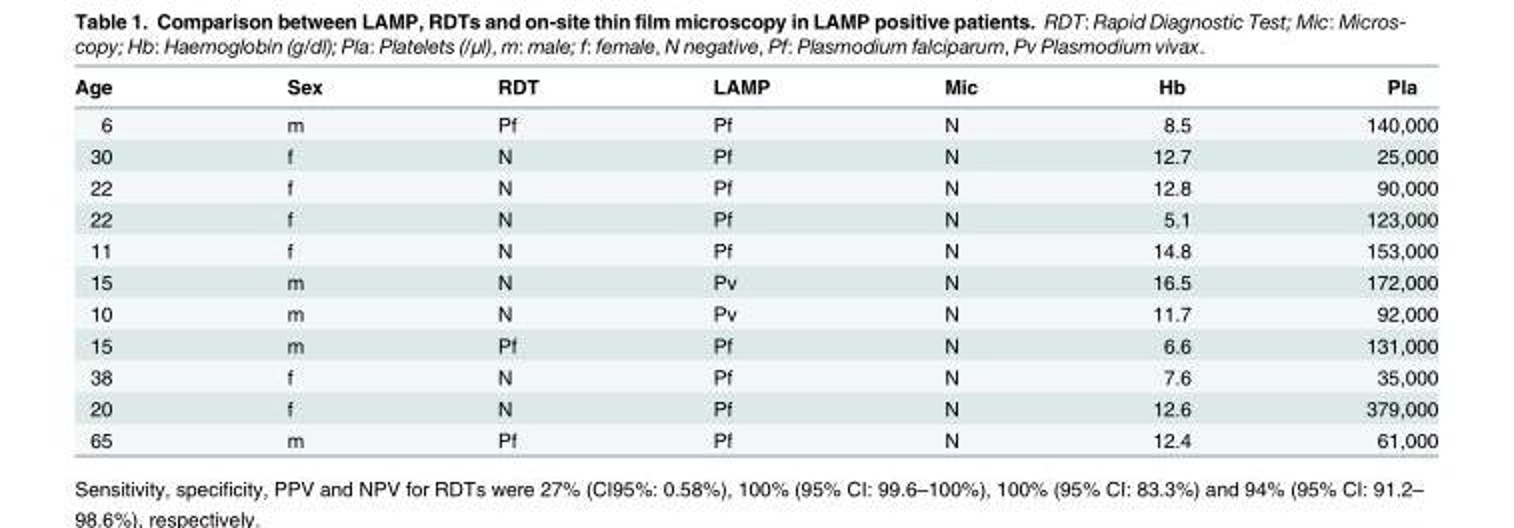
<table><thead><tr><td>Age</td><td>Sex</td><td>RDT</td><td>LAMP</td><td>Mic</td><td>Hb</td><td>Pla</td></tr></thead><tbody><tr><td>6</td><td>m</td><td>Pf</td><td>Pf</td><td>N</td><td>8.5</td><td>140,000</td></tr><tr><td>30</td><td>f</td><td>N</td><td>Pf</td><td>N</td><td>12.7</td><td>25,000</td></tr><tr><td>22</td><td>f</td><td>N</td><td>Pf</td><td>N</td><td>12.8</td><td>90,000</td></tr><tr><td>22</td><td>f</td><td>N</td><td>Pf</td><td>N</td><td>5.1</td><td>123,000</td></tr><tr><td>11</td><td>f</td><td>N</td><td>Pf</td><td>N</td><td>14.8</td><td>153,000</td></tr><tr><td>15</td><td>m</td><td>N</td><td>Pv</td><td>N</td><td>16.5</td><td>172,000</td></tr><tr><td>10</td><td>m</td><td>N</td><td>Pv</td><td>N</td><td>11.7</td><td>92,000</td></tr><tr><td>15</td><td>m</td><td>Pf</td><td>Pf</td><td>N</td><td>6.6</td><td>131,000</td></tr><tr><td>38</td><td>f</td><td>N</td><td>Pf</td><td>N</td><td>7.6</td><td>35,000</td></tr><tr><td>20</td><td>f</td><td>N</td><td>Pf</td><td>N</td><td>12.6</td><td>379,000</td></tr><tr><td>65</td><td>m</td><td>Pf</td><td>Pf</td><td>N</td><td>12.4</td><td>61,000</td></tr></tbody></table>